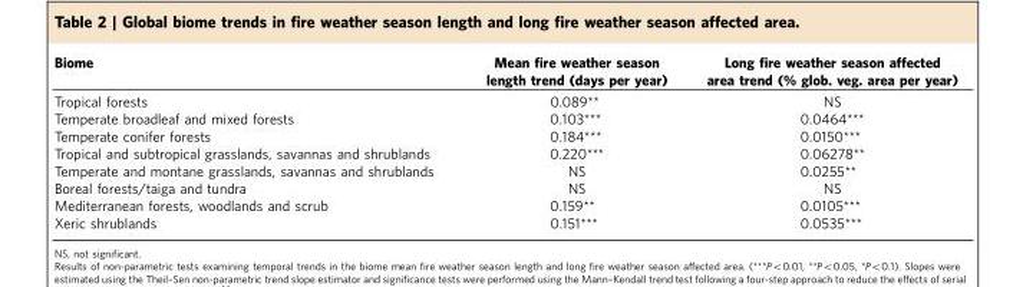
<table><thead><tr><td>Biome</td><td>Mean fire weather season length trend (days per year)</td><td>Long fire weather season affected area trend (% glob. veg. area per year)</td></tr></thead><tbody><tr><td>Tropical forests</td><td>0.089**</td><td>NS</td></tr><tr><td>Temperate broadleaf and mixed forests</td><td>0.103***</td><td>0.0464***</td></tr><tr><td>Temperate conifer forests</td><td>0.184***</td><td>0.0150***</td></tr><tr><td>Tropical and subtropical grasslands, savannas and shrublands</td><td>0.220***</td><td>0.06278**</td></tr><tr><td>Temperate and montane grasslands, savannas and shrublands</td><td>NS</td><td>0.0255**</td></tr><tr><td>Boreal forests/taiga and tundra</td><td>NS</td><td>NS</td></tr><tr><td>Mediterranean forests, woodlands and scrub</td><td>0.159**</td><td>0.0105***</td></tr><tr><td>Xeric shrublands</td><td>0.151***</td><td>0.0535***</td></tr></tbody></table>